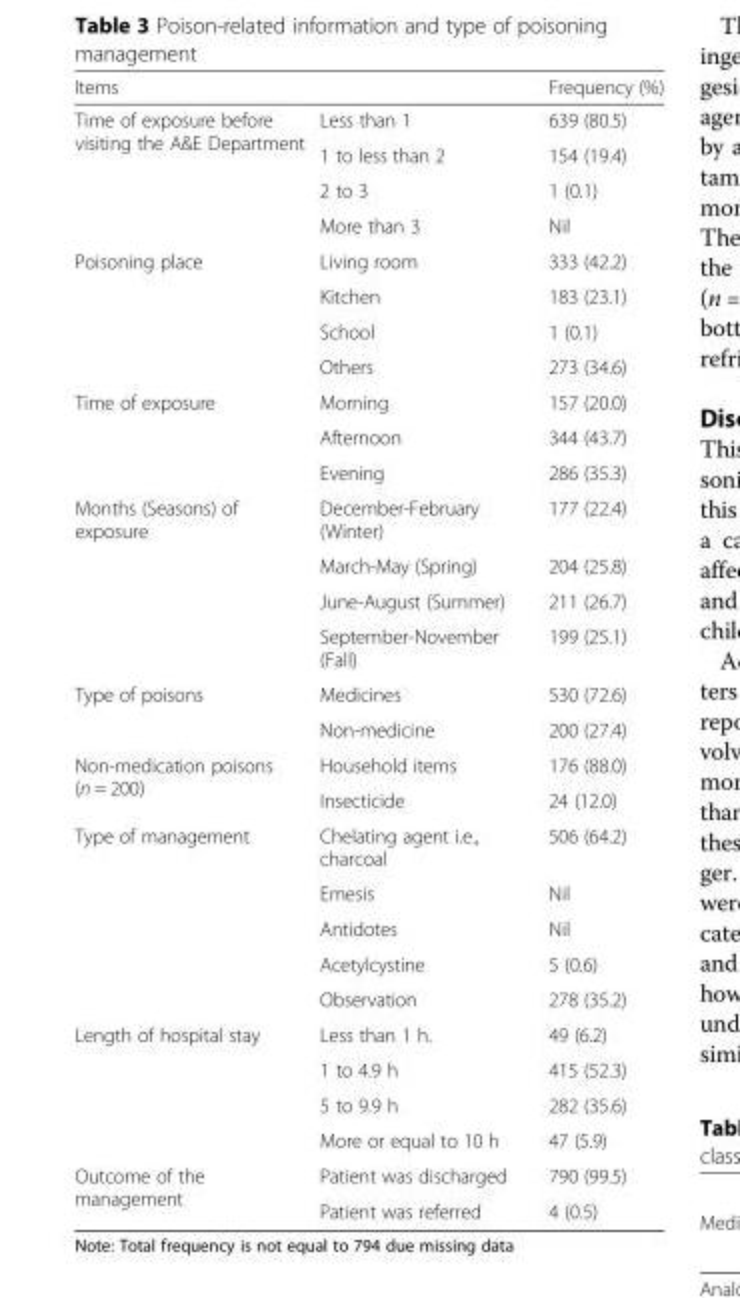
<table><thead><tr><td>Items</td><td></td><td>Frequency (%)</td></tr></thead><tbody><tr><td rowspan="4">Time of exposure before visiting the A&amp;E Department</td><td>Less than 1</td><td>639 (80.5)</td></tr><tr><td>1 to less than 2</td><td>154 (19.4)</td></tr><tr><td>2 to 3</td><td>1 (0.1)</td></tr><tr><td>More than 3</td><td>Nil</td></tr><tr><td rowspan="4">Poisoning place</td><td>Living room</td><td>333 (42.2)</td></tr><tr><td>Kitchen</td><td>183 (23.1)</td></tr><tr><td>School</td><td>1 (0.1)</td></tr><tr><td>Others</td><td>273 (34.6)</td></tr><tr><td rowspan="3">Time of exposure</td><td>Morning</td><td>157 (20.0)</td></tr><tr><td>Afternoon</td><td>344 (43.7)</td></tr><tr><td>Evening</td><td>286 (35.3)</td></tr><tr><td rowspan="4">Months (Seasons) of exposure</td><td>December-February (Winter)</td><td>177 (22.4)</td></tr><tr><td>March-May (Spring)</td><td>204 (25.8)</td></tr><tr><td>June-August (Summer)</td><td>211 (26.7)</td></tr><tr><td>September-November (Fall)</td><td>199 (25.1)</td></tr><tr><td rowspan="2">Type of poisons</td><td>Medicines</td><td>530 (72.6)</td></tr><tr><td>Non-medicine</td><td>200 (27.4)</td></tr><tr><td rowspan="2">Non-medication poisons (n = 200)</td><td>Household items</td><td>176 (88.0)</td></tr><tr><td>Insecticide</td><td>24 (12.0)</td></tr><tr><td rowspan="5">Type of management</td><td>Chelating agent i.e., charcoal</td><td>506 (64.2)</td></tr><tr><td>Emesis</td><td>Nil</td></tr><tr><td>Antidotes</td><td>Nil</td></tr><tr><td>Acetylcystine</td><td>5 (0.6)</td></tr><tr><td>Observation</td><td>278 (35.2)</td></tr><tr><td rowspan="4">Length of hospital stay</td><td>Less than 1 h.</td><td>49 (6.2)</td></tr><tr><td>1 to 4.9 h</td><td>415 (52.3)</td></tr><tr><td>5 to 9.9 h</td><td>282 (35.6)</td></tr><tr><td>More or equal to 10 h</td><td>47 (5.9)</td></tr><tr><td rowspan="2">Outcome of the management</td><td>Patient was discharged</td><td>790 (99.5)</td></tr><tr><td>Patient was referred</td><td>4 (0.5)</td></tr></tbody></table>